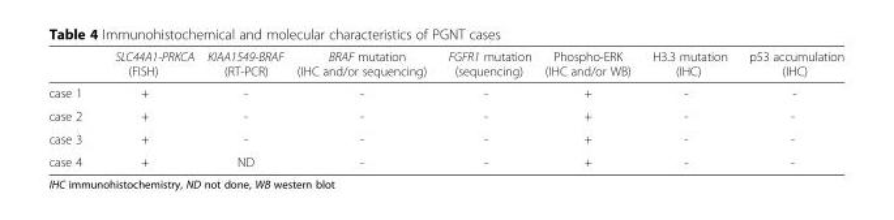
<table><thead><tr><td></td><td>SLC44A1-PRKCA (FISH)</td><td>KIAA1549-BRAF (RT-PCR)</td><td>BRAF mutation (IHC and/or sequencing)</td><td>FGFR1 mutation (sequencing)</td><td>Phospho-ERK (IHC and/or WB)</td><td>H3.3 mutation (IHC)</td><td>p53 accumulation (IHC)</td></tr></thead><tbody><tr><td>case 1</td><td>+</td><td>-</td><td>-</td><td>-</td><td>+</td><td>-</td><td>-</td></tr><tr><td>case 2</td><td>+</td><td>-</td><td>-</td><td>-</td><td>+</td><td>-</td><td>-</td></tr><tr><td>case 3</td><td>+</td><td>-</td><td>-</td><td>-</td><td>+</td><td>-</td><td>-</td></tr><tr><td>case 4</td><td>+</td><td>ND</td><td>-</td><td>-</td><td>+</td><td>-</td><td>-</td></tr></tbody></table>